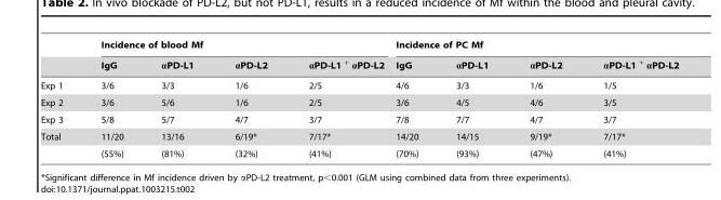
<table><thead><tr><td rowspan="2"></td><td colspan="4">Incidence of blood Mf</td><td colspan="4">Incidence of PC Mf</td></tr><tr><td>IgG</td><td>αPD-L1</td><td>αPD-L2</td><td>αPD-L1 <sup>+</sup> αPD-L2</td><td>IgG</td><td>αPD-L1</td><td>αPD-L2</td><td>αPD-L1 <sup>+</sup> αPD-L2</td></tr></thead><tbody><tr><td>Exp 1</td><td>3/6</td><td>3/3</td><td>1/6</td><td>2/5</td><td>4/6</td><td>3/3</td><td>1/6</td><td>1/5</td></tr><tr><td>Exp 2</td><td>3/6</td><td>5/6</td><td>1/6</td><td>2/5</td><td>3/6</td><td>4/5</td><td>4/6</td><td>3/5</td></tr><tr><td>Exp 3</td><td>5/8</td><td>5/7</td><td>4/7</td><td>3/7</td><td>7/8</td><td>7/7</td><td>4/7</td><td>3/7</td></tr><tr><td rowspan="2">Total</td><td>11/20</td><td>13/16</td><td>6/19*</td><td>7/17*</td><td>14/20</td><td>14/15</td><td>9/19*</td><td>7/17*</td></tr><tr><td>(55%)</td><td>(81%)</td><td>(32%)</td><td>(41%)</td><td>(70%)</td><td>(93%)</td><td>(47%)</td><td>(41%)</td></tr></tbody></table>